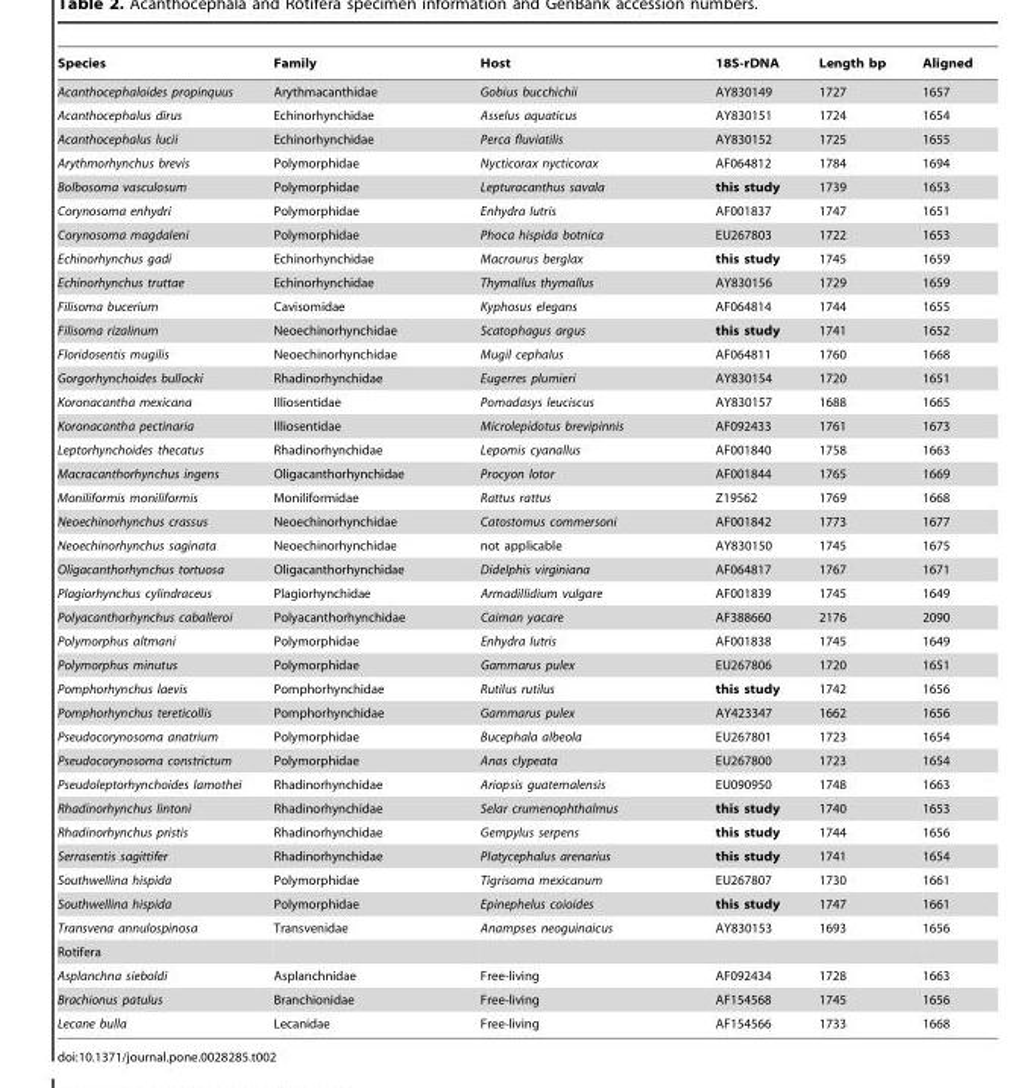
<table><thead><tr><td>Species</td><td>Family</td><td>Host</td><td>18S-rDNA</td><td>Length bp</td><td>Aligned</td></tr></thead><tbody><tr><td>Acanthocephaloides propinquus</td><td>Arythmacanthidae</td><td>Gobius bucchichii</td><td>AY830149</td><td>1727</td><td>1657</td></tr><tr><td>Acanthocephalus dirus</td><td>Echinorhynchidae</td><td>Asselus aquaticus</td><td>AY830151</td><td>1724</td><td>1654</td></tr><tr><td>Acanthocephalus lucii</td><td>Echinorhynchidae</td><td>Perca fluviatilis</td><td>AY830152</td><td>1725</td><td>1655</td></tr><tr><td>Arythmorhynchus brevis</td><td>Polymorphidae</td><td>Nycticorax nycticorax</td><td>AF064812</td><td>1784</td><td>1694</td></tr><tr><td>Bolbosoma vasculosum</td><td>Polymorphidae</td><td>Lepturacanthus savala</td><td>this study</td><td>1739</td><td>1653</td></tr><tr><td>Corynosoma enhydri</td><td>Polymorphidae</td><td>Enhydra lutris</td><td>AF001837</td><td>1747</td><td>1651</td></tr><tr><td>Corynosoma magdaleni</td><td>Polymorphidae</td><td>Phoca hispida botnica</td><td>EU267803</td><td>1722</td><td>1653</td></tr><tr><td>Echinorhynchus gadi</td><td>Echinorhynchidae</td><td>Macrourus berglax</td><td>this study</td><td>1745</td><td>1659</td></tr><tr><td>Echinorhynchus truttae</td><td>Echinorhynchidae</td><td>Thymallus thymallus</td><td>AY830156</td><td>1729</td><td>1659</td></tr><tr><td>Filisoma bucerium</td><td>Cavisomidae</td><td>Kyphosus elegans</td><td>AF064814</td><td>1744</td><td>1655</td></tr><tr><td>Filisoma rizalinum</td><td>Neoechinorhynchidae</td><td>Scatophagus argus</td><td>this study</td><td>1741</td><td>1652</td></tr><tr><td>Floridosentis mugilis</td><td>Neoechinorhynchidae</td><td>Mugil cephalus</td><td>AF064811</td><td>1760</td><td>1668</td></tr><tr><td>Gorgorhynchoides bullocki</td><td>Rhadinorhynchidae</td><td>Eugerres plumieri</td><td>AY830154</td><td>1720</td><td>1651</td></tr><tr><td>Koronacantha mexicana</td><td>Illiosentidae</td><td>Pomadasys leuciscus</td><td>AY830157</td><td>1688</td><td>1665</td></tr><tr><td>Koronacantha pectinaria</td><td>Illiosentidae</td><td>Microlepidotus brevipinnis</td><td>AF092433</td><td>1761</td><td>1673</td></tr><tr><td>Leptorhynchoides thecatus</td><td>Rhadinorhynchidae</td><td>Lepomis cyanallus</td><td>AF001840</td><td>1758</td><td>1663</td></tr><tr><td>Macracanthorhynchus ingens</td><td>Oligacanthorhynchidae</td><td>Procyon lotor</td><td>AF001844</td><td>1765</td><td>1669</td></tr><tr><td>Moniliformis moniliformis</td><td>Moniliformidae</td><td>Rattus rattus</td><td>Z19562</td><td>1769</td><td>1668</td></tr><tr><td>Neoechinorhynchus crassus</td><td>Neoechinorhynchidae</td><td>Catostomus commersoni</td><td>AF001842</td><td>1773</td><td>1677</td></tr><tr><td>Neoechinorhynchus saginata</td><td>Neoechinorhynchidae</td><td>not applicable</td><td>AY830150</td><td>1745</td><td>1675</td></tr><tr><td>Oligacanthorhynchus tortuosa</td><td>Oligacanthorhynchidae</td><td>Didelphis virginiana</td><td>AF064817</td><td>1767</td><td>1671</td></tr><tr><td>Plagiorhynchus cylindraceus</td><td>Plagiorhynchidae</td><td>Armadillidium vulgare</td><td>AF001839</td><td>1745</td><td>1649</td></tr><tr><td>Polyacanthorhynchus caballeroi</td><td>Polyacanthorhynchidae</td><td>Caiman yacare</td><td>AF388660</td><td>2176</td><td>2090</td></tr><tr><td>Polymorphus altmani</td><td>Polymorphidae</td><td>Enhydra lutris</td><td>AF001838</td><td>1745</td><td>1649</td></tr><tr><td>Polymorphus minutus</td><td>Polymorphidae</td><td>Gammarus pulex</td><td>EU267806</td><td>1720</td><td>1651</td></tr><tr><td>Pomphorhynchus laevis</td><td>Pomphorhynchidae</td><td>Rutilus rutilus</td><td>this study</td><td>1742</td><td>1656</td></tr><tr><td>Pomphorhynchus tereticollis</td><td>Pomphorhynchidae</td><td>Gammarus pulex</td><td>AY423347</td><td>1662</td><td>1656</td></tr><tr><td>Pseudocorynosoma anatrium</td><td>Polymorphidae</td><td>Bucephala albeola</td><td>EU267801</td><td>1723</td><td>1654</td></tr><tr><td>Pseudocorynosoma constrictum</td><td>Polymorphidae</td><td>Anas clypeata</td><td>EU267800</td><td>1723</td><td>1654</td></tr><tr><td>Pseudoleptorhynchoides lamothei</td><td>Rhadinorhynchidae</td><td>Ariopsis guatemalensis</td><td>EU090950</td><td>1748</td><td>1663</td></tr><tr><td>Rhadinorhynchus lintoni</td><td>Rhadinorhynchidae</td><td>Selar crumenophthalmus</td><td>this study</td><td>1740</td><td>1653</td></tr><tr><td>Rhadinorhynchus pristis</td><td>Rhadinorhynchidae</td><td>Gempylus serpens</td><td>this study</td><td>1744</td><td>1656</td></tr><tr><td>Serrasentis sagittifer</td><td>Rhadinorhynchidae</td><td>Platycephalus arenarius</td><td>this study</td><td>1741</td><td>1654</td></tr><tr><td>Southwellina hispida</td><td>Polymorphidae</td><td>Tigrisoma mexicanum</td><td>EU267807</td><td>1730</td><td>1661</td></tr><tr><td>Southwellina hispida</td><td>Polymorphidae</td><td>Epinephelus coioides</td><td>this study</td><td>1747</td><td>1661</td></tr><tr><td>Transvena annulospinosa</td><td>Transvenidae</td><td>Anampses neoguinaicus</td><td>AY830153</td><td>1693</td><td>1656</td></tr><tr><td colspan="6">Rotifera</td></tr><tr><td>Asplanchna sieboldi</td><td>Asplanchnidae</td><td>Free-living</td><td>AF092434</td><td>1728</td><td>1663</td></tr><tr><td>Brachionus patulus</td><td>Branchionidae</td><td>Free-living</td><td>AF154568</td><td>1745</td><td>1656</td></tr><tr><td>Lecane bulla</td><td>Lecanidae</td><td>Free-living</td><td>AF154566</td><td>1733</td><td>1668</td></tr></tbody></table>